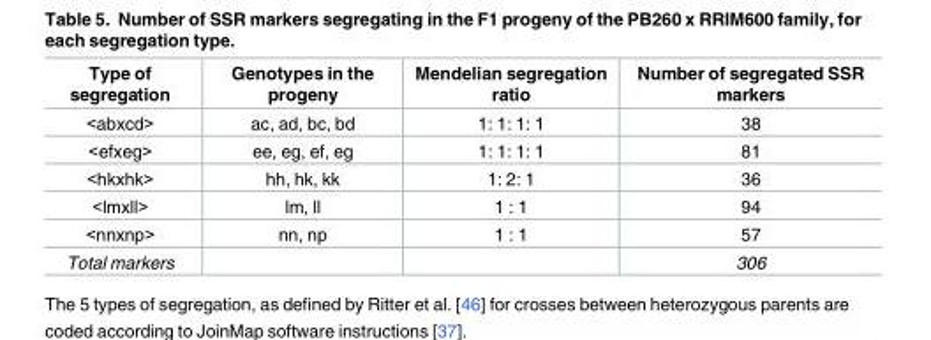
<table><thead><tr><td>Type of segregation</td><td>Genotypes in the progeny</td><td>Mendelian segregation ratio</td><td>Number of segregated SSR markers</td></tr></thead><tbody><tr><td>&lt;abxcd&gt;</td><td>ac, ad, bc, bd</td><td>1: 1: 1: 1</td><td>38</td></tr><tr><td>&lt;efxeg&gt;</td><td>ee, eg, ef, eg</td><td>1: 1: 1: 1</td><td>81</td></tr><tr><td>&lt;hkxhk&gt;</td><td>hh, hk, kk</td><td>1: 2: 1</td><td>36</td></tr><tr><td>&lt;lmxll&gt;</td><td>lm, ll</td><td>1 : 1</td><td>94</td></tr><tr><td>&lt;nnxnp&gt;</td><td>nn, np</td><td>1 : 1</td><td>57</td></tr><tr><td>Total markers</td><td></td><td></td><td>306</td></tr></tbody></table>